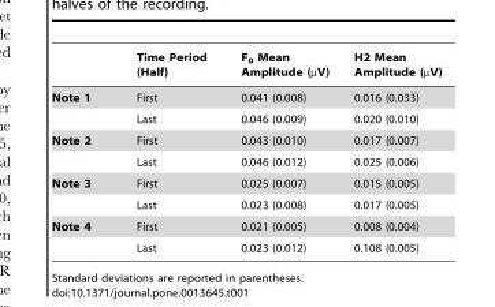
<table><thead><tr><td></td><td>Time Period (Half)</td><td>F<sub>0</sub> Mean Amplitude (µV)</td><td>H2 Mean Amplitude (µV)</td></tr></thead><tbody><tr><td rowspan="2">Note 1</td><td>First</td><td>0.041 (0.008)</td><td>0.016 (0.033)</td></tr><tr><td>Last</td><td>0.046 (0.009)</td><td>0.020 (0.010)</td></tr><tr><td rowspan="2">Note 2</td><td>First</td><td>0.043 (0.010)</td><td>0.017 (0.007)</td></tr><tr><td>Last</td><td>0.046 (0.012)</td><td>0.025 (0.006)</td></tr><tr><td rowspan="2">Note 3</td><td>First</td><td>0.025 (0.007)</td><td>0.015 (0.005)</td></tr><tr><td>Last</td><td>0.023 (0.008)</td><td>0.017 (0.005)</td></tr><tr><td rowspan="2">Note 4</td><td>First</td><td>0.021 (0.005)</td><td>0.008 (0.004)</td></tr><tr><td>Last</td><td>0.023 (0.012)</td><td>0.108 (0.005)</td></tr></tbody></table>